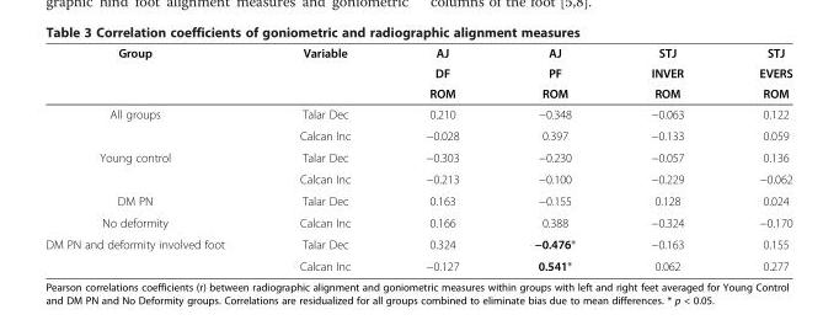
<table><thead><tr><td rowspan="3">Group</td><td rowspan="3">Variable</td><td rowspan="3">AJ DF ROM</td><td rowspan="3">AJ PF ROM</td><td rowspan="3">STJ INVER ROM</td><td rowspan="3">STJ EVERS ROM</td></tr><tr></tr><tr></tr></thead><tbody><tr><td rowspan="2">All groups</td><td>Talar Dec</td><td>0.210</td><td>−0.348</td><td>−0.063</td><td>0.122</td></tr><tr><td>Calcan Inc</td><td>−0.028</td><td>0.397</td><td>−0.133</td><td>0.059</td></tr><tr><td rowspan="2">Young control</td><td>Talar Dec</td><td>−0.303</td><td>−0.230</td><td>−0.057</td><td>0.136</td></tr><tr><td>Calcan Inc</td><td>−0.213</td><td>−0.100</td><td>−0.229</td><td>−0.062</td></tr><tr><td>DM PN</td><td>Talar Dec</td><td>0.163</td><td>−0.155</td><td>0.128</td><td>0.024</td></tr><tr><td>No deformity</td><td>Calcan Inc</td><td>0.166</td><td>0.388</td><td>−0.324</td><td>−0.170</td></tr><tr><td rowspan="2">DM PN and deformity involved foot</td><td>Talar Dec</td><td>0.324</td><td>−0.476*</td><td>−0.163</td><td>0.155</td></tr><tr><td>Calcan Inc</td><td>−0.127</td><td>0.541*</td><td>0.062</td><td>0.277</td></tr></tbody></table>